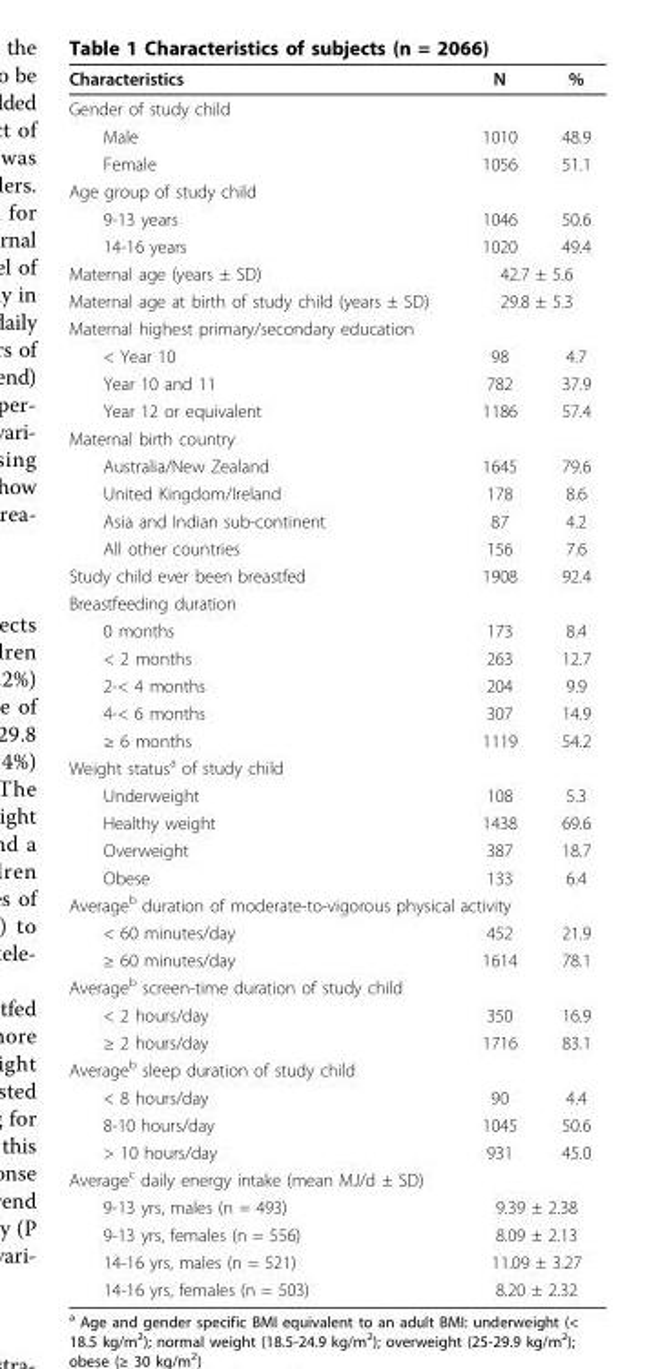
<table><thead><tr><td>Characteristics</td><td>N</td><td>%</td></tr></thead><tbody><tr><td colspan="3">Gender of study child</td></tr><tr><td>Male</td><td>1010</td><td>48.9</td></tr><tr><td>Female</td><td>1056</td><td>51.1</td></tr><tr><td colspan="3">Age group of study child</td></tr><tr><td>9-13 years</td><td>1046</td><td>50.6</td></tr><tr><td>14-16 years</td><td>1020</td><td>49.4</td></tr><tr><td>Maternal age (years ± SD)</td><td colspan="2">42.7 ± 5.6</td></tr><tr><td>Maternal age at birth of study child (years ± SD)</td><td colspan="2">29.8 ± 5.3</td></tr><tr><td colspan="3">Maternal highest primary/secondary education</td></tr><tr><td>&lt; Year 10</td><td>98</td><td>4.7</td></tr><tr><td>Year 10 and 11</td><td>782</td><td>37.9</td></tr><tr><td>Year 12 or equivalent</td><td>1186</td><td>57.4</td></tr><tr><td colspan="3">Maternal birth country</td></tr><tr><td>Australia/New Zealand</td><td>1645</td><td>79.6</td></tr><tr><td>United Kingdom/Ireland</td><td>178</td><td>8.6</td></tr><tr><td>Asia and Indian sub-continent</td><td>87</td><td>4.2</td></tr><tr><td>All other countries</td><td>156</td><td>7.6</td></tr><tr><td>Study child ever been breastfed</td><td>1908</td><td>92.4</td></tr><tr><td colspan="3">Breastfeeding duration</td></tr><tr><td>0 months</td><td>173</td><td>8.4</td></tr><tr><td>&lt; 2 months</td><td>263</td><td>12.7</td></tr><tr><td>2-&lt; 4 months</td><td>204</td><td>9.9</td></tr><tr><td>4-&lt; 6 months</td><td>307</td><td>14.9</td></tr><tr><td>≥ 6 months</td><td>1119</td><td>54.2</td></tr><tr><td colspan="3">Weight status<sup>a</sup> of study child</td></tr><tr><td>Underweight</td><td>108</td><td>5.3</td></tr><tr><td>Healthy weight</td><td>1438</td><td>69.6</td></tr><tr><td>Overweight</td><td>387</td><td>18.7</td></tr><tr><td>Obese</td><td>133</td><td>6.4</td></tr><tr><td colspan="3">Average<sup>b</sup> duration of moderate-to-vigorous physical activity</td></tr><tr><td>&lt; 60 minutes/day</td><td>452</td><td>21.9</td></tr><tr><td>≥ 60 minutes/day</td><td>1614</td><td>78.1</td></tr><tr><td colspan="3">Average<sup>b</sup> screen-time duration of study child</td></tr><tr><td>&lt; 2 hours/day</td><td>350</td><td>16.9</td></tr><tr><td>≥ 2 hours/day</td><td>1716</td><td>83.1</td></tr><tr><td colspan="3">Average<sup>b</sup> sleep duration of study child</td></tr><tr><td>&lt; 8 hours/day</td><td>90</td><td>4.4</td></tr><tr><td>8-10 hours/day</td><td>1045</td><td>50.6</td></tr><tr><td>&gt; 10 hours/day</td><td>931</td><td>45.0</td></tr><tr><td colspan="3">Average<sup>c</sup> daily energy intake (mean MJ/d ± SD)</td></tr><tr><td>9-13 yrs, males (n = 493)</td><td colspan="2">9.39 ± 2.38</td></tr><tr><td>9-13 yrs, females (n = 556)</td><td colspan="2">8.09 ± 2.13</td></tr><tr><td>14-16 yrs, males (n = 521)</td><td colspan="2">11.09 ± 3.27</td></tr><tr><td>14-16 yrs, females (n = 503)</td><td colspan="2">8.20 ± 2.32</td></tr></tbody></table>